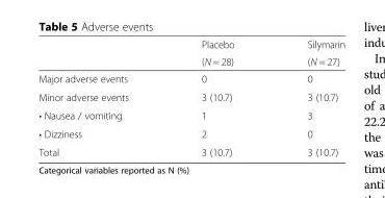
<table><thead><tr><td rowspan="2"></td><td rowspan="2">Placebo (N = 28)</td><td rowspan="2">Silymarin (N = 27)</td></tr><tr></tr></thead><tbody><tr><td>Major adverse events</td><td>0</td><td>0</td></tr><tr><td>Minor adverse events</td><td>3 (10.7)</td><td>3 (10.7)</td></tr><tr><td>• Nausea / vomiting</td><td>1</td><td>3</td></tr><tr><td>• Dizziness</td><td>2</td><td>0</td></tr><tr><td>Total</td><td>3 (10.7)</td><td>3 (10.7)</td></tr></tbody></table>